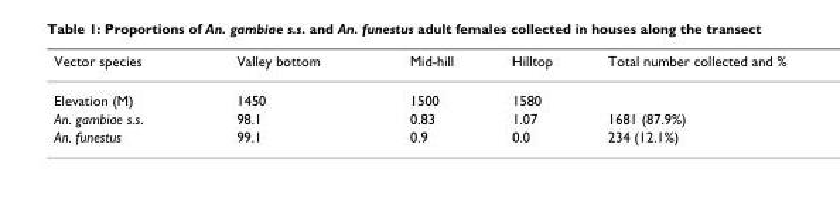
<table><thead><tr><td>Vector species</td><td>Valley bottom</td><td>Mid-hill</td><td>Hilltop</td><td>Total number collected and %</td></tr></thead><tbody><tr><td>Elevation (M)</td><td>1450</td><td>1500</td><td>1580</td><td></td></tr><tr><td>An. gambiae s.s.</td><td>98.1</td><td>0.83</td><td>1.07</td><td>1681 (87.9%)</td></tr><tr><td>An. funestus</td><td>99.1</td><td>0.9</td><td>0.0</td><td>234 (12.1%)</td></tr></tbody></table>